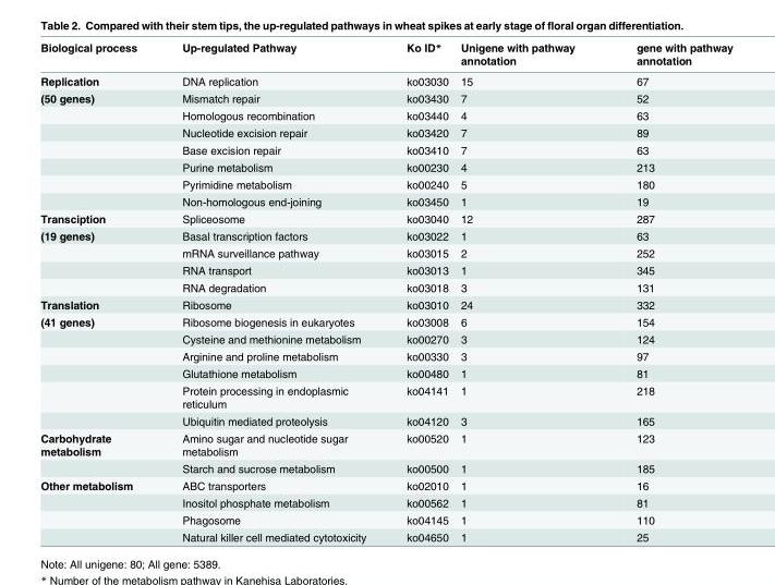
<table><thead><tr><td>Biological process</td><td>Up-regulated Pathway</td><td>Ko ID*</td><td>Unigene with pathway annotation</td><td>gene with pathway annotation</td></tr></thead><tbody><tr><td>Replication</td><td>DNA replication</td><td>ko03030</td><td>15</td><td>67</td></tr><tr><td rowspan="7">(50 genes)</td><td>Mismatch repair</td><td>ko03430</td><td>7</td><td>52</td></tr><tr><td>Homologous recombination</td><td>ko03440</td><td>4</td><td>63</td></tr><tr><td>Nucleotide excision repair</td><td>ko03420</td><td>7</td><td>89</td></tr><tr><td>Base excision repair</td><td>ko03410</td><td>7</td><td>63</td></tr><tr><td>Purine metabolism</td><td>ko00230</td><td>4</td><td>213</td></tr><tr><td>Pyrimidine metabolism</td><td>ko00240</td><td>5</td><td>180</td></tr><tr><td>Non-homologous end-joining</td><td>ko03450</td><td>1</td><td>19</td></tr><tr><td>Transciption</td><td>Spliceosome</td><td>ko03040</td><td>12</td><td>287</td></tr><tr><td rowspan="4">(19 genes)</td><td>Basal transcription factors</td><td>ko03022</td><td>1</td><td>63</td></tr><tr><td>mRNA surveillance pathway</td><td>ko03015</td><td>2</td><td>252</td></tr><tr><td>RNA transport</td><td>ko03013</td><td>1</td><td>345</td></tr><tr><td>RNA degradation</td><td>ko03018</td><td>3</td><td>131</td></tr><tr><td>Translation</td><td>Ribosome</td><td>ko03010</td><td>24</td><td>332</td></tr><tr><td rowspan="6">(41 genes)</td><td>Ribosome biogenesis in eukaryotes</td><td>ko03008</td><td>6</td><td>154</td></tr><tr><td>Cysteine and methionine metabolism</td><td>ko00270</td><td>3</td><td>124</td></tr><tr><td>Arginine and proline metabolism</td><td>ko00330</td><td>3</td><td>97</td></tr><tr><td>Glutathione metabolism</td><td>ko00480</td><td>1</td><td>81</td></tr><tr><td>Protein processing in endoplasmic reticulum</td><td>ko04141</td><td>1</td><td>218</td></tr><tr><td>Ubiquitin mediated proteolysis</td><td>ko04120</td><td>3</td><td>165</td></tr><tr><td rowspan="2">Carbohydrate metabolism</td><td>Amino sugar and nucleotide sugar metabolism</td><td>ko00520</td><td>1</td><td>123</td></tr><tr><td>Starch and sucrose metabolism</td><td>ko00500</td><td>1</td><td>185</td></tr><tr><td rowspan="4">Other metabolism</td><td>ABC transporters</td><td>ko02010</td><td>1</td><td>16</td></tr><tr><td>Inositol phosphate metabolism</td><td>ko00562</td><td>1</td><td>81</td></tr><tr><td>Phagosome</td><td>ko04145</td><td>1</td><td>110</td></tr><tr><td>Natural killer cell mediated cytotoxicity</td><td>ko04650</td><td>1</td><td>25</td></tr></tbody></table>